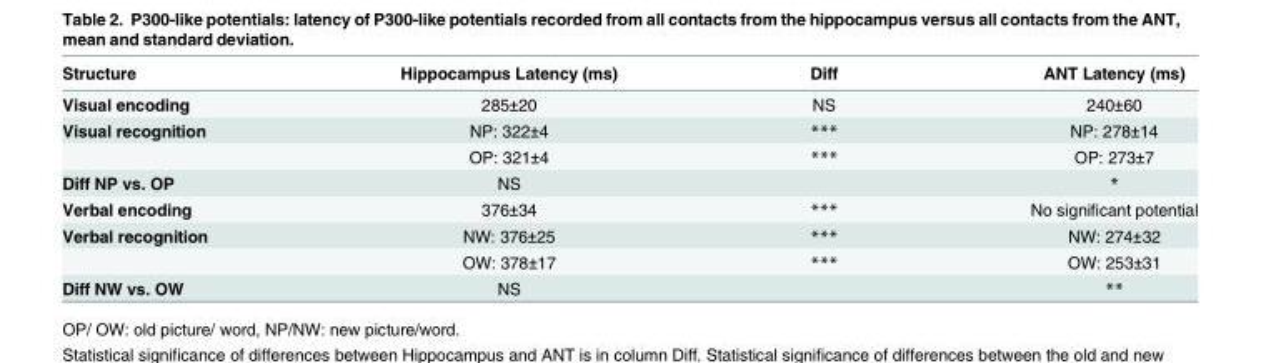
<table><thead><tr><td>Structure</td><td>Hippocampus Latency (ms)</td><td>Diff</td><td>ANT Latency (ms)</td></tr></thead><tbody><tr><td>Visual encoding</td><td>285±20</td><td>NS</td><td>240±60</td></tr><tr><td rowspan="2">Visual recognition</td><td>NP: 322±4</td><td>***</td><td>NP: 278±14</td></tr><tr><td>OP: 321±4</td><td>***</td><td>OP: 273±7</td></tr><tr><td>Diff NP vs. OP</td><td>NS</td><td></td><td>*</td></tr><tr><td>Verbal encoding</td><td>376±34</td><td>***</td><td>No significant potential</td></tr><tr><td rowspan="2">Verbal recognition</td><td>NW: 376±25</td><td>***</td><td>NW: 274±32</td></tr><tr><td>OW: 378±17</td><td>***</td><td>OW: 253±31</td></tr><tr><td>Diff NW vs. OW</td><td>NS</td><td></td><td>**</td></tr></tbody></table>